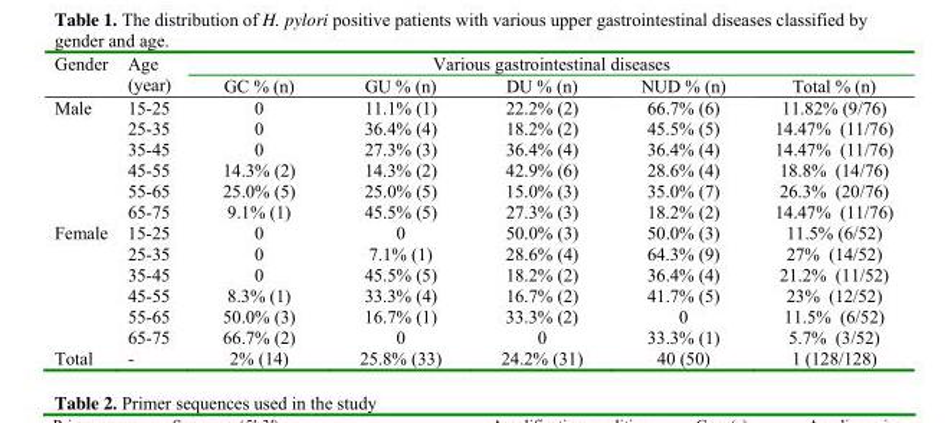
<table><thead><tr><td rowspan="2">Gender</td><td rowspan="2">Age (year)</td><td colspan="5">Various gastrointestinal diseases</td></tr><tr><td>GC % (n)</td><td>GU % (n)</td><td>DU % (n)</td><td>NUD % (n)</td><td>Total % (n)</td></tr></thead><tbody><tr><td rowspan="6">Male</td><td>15-25</td><td>0</td><td>11.1% (1)</td><td>22.2% (2)</td><td>66.7% (6)</td><td>11.82% (9/76)</td></tr><tr><td>25-35</td><td>0</td><td>36.4% (4)</td><td>18.2% (2)</td><td>45.5% (5)</td><td>14.47% (11/76)</td></tr><tr><td>35-45</td><td>0</td><td>27.3% (3)</td><td>36.4% (4)</td><td>36.4% (4)</td><td>14.47% (11/76)</td></tr><tr><td>45-55</td><td>14.3% (2)</td><td>14.3% (2)</td><td>42.9% (6)</td><td>28.6% (4)</td><td>18.8% (14/76)</td></tr><tr><td>55-65</td><td>25.0% (5)</td><td>25.0% (5)</td><td>15.0% (3)</td><td>35.0% (7)</td><td>26.3% (20/76)</td></tr><tr><td>65-75</td><td>9.1% (1)</td><td>45.5% (5)</td><td>27.3% (3)</td><td>18.2% (2)</td><td>14.47% (11/76)</td></tr><tr><td rowspan="6">Female</td><td>15-25</td><td>0</td><td>0</td><td>50.0% (3)</td><td>50.0% (3)</td><td>11.5% (6/52)</td></tr><tr><td>25-35</td><td>0</td><td>7.1% (1)</td><td>28.6% (4)</td><td>64.3% (9)</td><td>27% (14/52)</td></tr><tr><td>35-45</td><td>0</td><td>45.5% (5)</td><td>18.2% (2)</td><td>36.4% (4)</td><td>21.2% (11/52)</td></tr><tr><td>45-55</td><td>8.3% (1)</td><td>33.3% (4)</td><td>16.7% (2)</td><td>41.7% (5)</td><td>23% (12/52)</td></tr><tr><td>55-65</td><td>50.0% (3)</td><td>16.7% (1)</td><td>33.3% (2)</td><td>0</td><td>11.5% (6/52)</td></tr><tr><td>65-75</td><td>66.7% (2)</td><td>0</td><td>0</td><td>33.3% (1)</td><td>5.7% (3/52)</td></tr><tr><td>Total</td><td>-</td><td>2% (14)</td><td>25.8% (33)</td><td>24.2% (31)</td><td>40 (50)</td><td>1 (128/128)</td></tr></tbody></table>